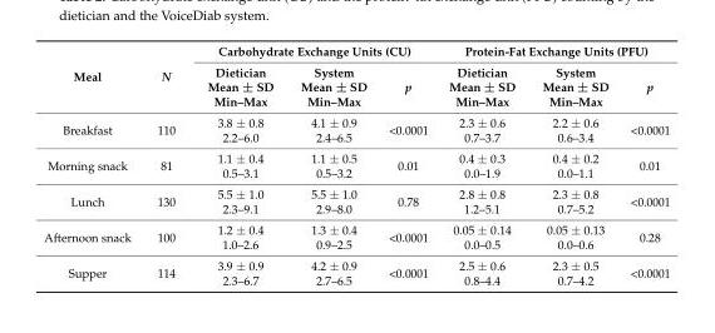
<table><thead><tr><td rowspan="2">Meal</td><td rowspan="2">N</td><td colspan="3">Carbohydrate Exchange Units (CU)</td><td colspan="3">Protein-Fat Exchange Units (PFU)</td></tr><tr><td>Dietician Mean ± SD Min–Max</td><td>System Mean ± SD Min–Max</td><td>p</td><td>Dietician Mean ± SD Min–Max</td><td>System Mean ± SD Min–Max</td><td>p</td></tr></thead><tbody><tr><td>Breakfast</td><td>110</td><td>3.8 ± 0.8 2.2–6.0</td><td>4.1 ± 0.9 2.4–6.5</td><td>&lt;0.0001</td><td>2.3 ± 0.6 0.7–3.7</td><td>2.2 ± 0.6 0.6–3.4</td><td>&lt;0.0001</td></tr><tr><td>Morning snack</td><td>81</td><td>1.1 ± 0.4 0.5–3.1</td><td>1.1 ± 0.5 0.5–3.2</td><td>0.01</td><td>0.4 ± 0.3 0.0–1.9</td><td>0.4 ± 0.2 0.0–1.1</td><td>0.01</td></tr><tr><td>Lunch</td><td>130</td><td>5.5 ± 1.0 2.3–9.1</td><td>5.5 ± 1.0 2.9–8.0</td><td>0.78</td><td>2.8 ± 0.8 1.2–5.1</td><td>2.3 ± 0.8 0.7–5.2</td><td>&lt;0.0001</td></tr><tr><td>Afternoon snack</td><td>100</td><td>1.2 ± 0.4 1.0–2.6</td><td>1.3 ± 0.4 0.9–2.5</td><td>&lt;0.0001</td><td>0.05 ± 0.14 0.0–0.5</td><td>0.05 ± 0.13 0.0–0.6</td><td>0.28</td></tr><tr><td>Supper</td><td>114</td><td>3.9 ± 0.9 2.3–6.7</td><td>4.2 ± 0.9 2.7–6.5</td><td>&lt;0.0001</td><td>2.5 ± 0.6 0.8–4.4</td><td>2.3 ± 0.5 0.7–4.2</td><td>&lt;0.0001</td></tr></tbody></table>